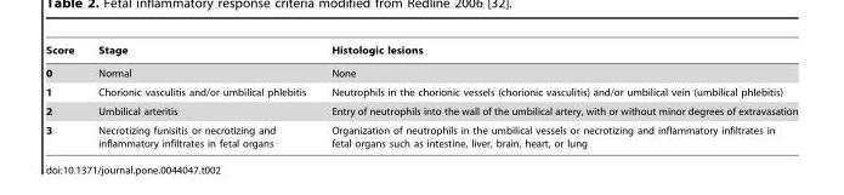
<table><thead><tr><td>Score</td><td>Stage</td><td>Histologic lesions</td></tr></thead><tbody><tr><td>0</td><td>Normal</td><td>None</td></tr><tr><td>1</td><td>Chorionic vasculitis and/or umbilical phlebitis</td><td>Neutrophils in the chorionic vessels (chorionic vasculitis) and/or umbilical vein (umbilical phlebitis)</td></tr><tr><td>2</td><td>Umbilical arteritis</td><td>Entry of neutrophils into the wall of the umbilical artery, with or without minor degrees of extravasation</td></tr><tr><td>3</td><td>Necrotizing funisitis or necrotizing and inflammatory infiltrates in fetal organs</td><td>Organization of neutrophils in the umbilical vessels or necrotizing and inflammatory infiltrates in fetal organs such as intestine, liver, brain, heart, or lung</td></tr></tbody></table>